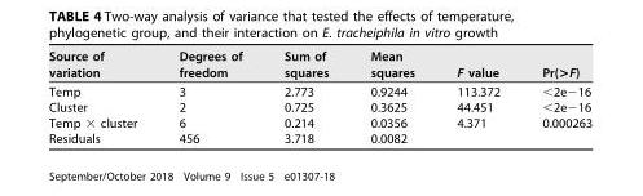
<table><thead><tr><td>Source of variation</td><td>Degrees of freedom</td><td>Sum of squares</td><td>Mean squares</td><td>F value</td><td>Pr(&gt;F)</td></tr></thead><tbody><tr><td>Temp</td><td>3</td><td>2.773</td><td>0.9244</td><td>113.372</td><td>&lt;2e−16</td></tr><tr><td>Cluster</td><td>2</td><td>0.725</td><td>0.3625</td><td>44.451</td><td>&lt;2e−16</td></tr><tr><td>Temp × cluster</td><td>6</td><td>0.214</td><td>0.0356</td><td>4.371</td><td>0.000263</td></tr><tr><td>Residuals</td><td>456</td><td>3.718</td><td>0.0082</td><td></td><td></td></tr></tbody></table>